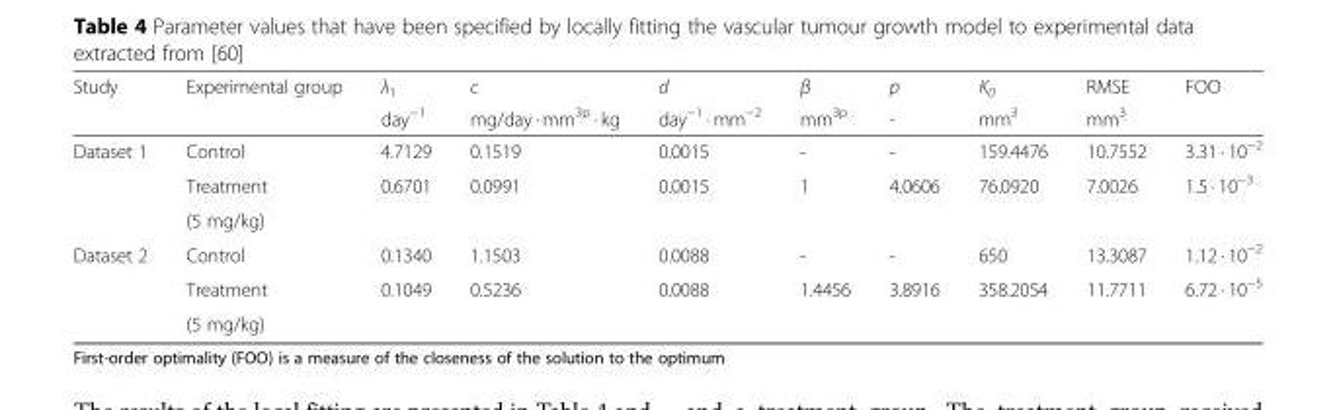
<table><thead><tr><td rowspan="2">Study</td><td rowspan="2">Experimental group</td><td rowspan="2">λ<sub>1</sub> day<sup>−1</sup></td><td rowspan="2">c mg/day · mm<sup>3p</sup> · kg</td><td rowspan="2">d day<sup>−1</sup> · mm<sup>−2</sup></td><td rowspan="2">β mm<sup>3p</sup></td><td rowspan="2">p -</td><td rowspan="2">K<sub>0</sub> mm<sup>3</sup></td><td rowspan="2">RMSE mm<sup>3</sup></td><td rowspan="2">FOO</td></tr><tr></tr></thead><tbody><tr><td rowspan="3">Dataset 1</td><td>Control</td><td>4.7129</td><td>0.1519</td><td>0.0015</td><td>-</td><td>-</td><td>159.4476</td><td>10.7552</td><td>3.31 · 10<sup>−2</sup></td></tr><tr><td>Treatment</td><td rowspan="2">0.6701</td><td rowspan="2">0.0991</td><td rowspan="2">0.0015</td><td rowspan="2">1</td><td rowspan="2">4.0606</td><td rowspan="2">76.0920</td><td rowspan="2">7.0026</td><td rowspan="2">1.5 · 10<sup>−3</sup></td></tr><tr><td>(5 mg/kg)</td></tr><tr><td rowspan="3">Dataset 2</td><td>Control</td><td>0.1340</td><td>1.1503</td><td>0.0088</td><td>-</td><td>-</td><td>650</td><td>13.3087</td><td>1.12 · 10<sup>−2</sup></td></tr><tr><td>Treatment</td><td rowspan="2">0.1049</td><td rowspan="2">0.5236</td><td rowspan="2">0.0088</td><td rowspan="2">1.4456</td><td rowspan="2">3.8916</td><td rowspan="2">358.2054</td><td rowspan="2">11.7711</td><td rowspan="2">6.72 · 10<sup>−5</sup></td></tr><tr><td>(5 mg/kg)</td></tr></tbody></table>